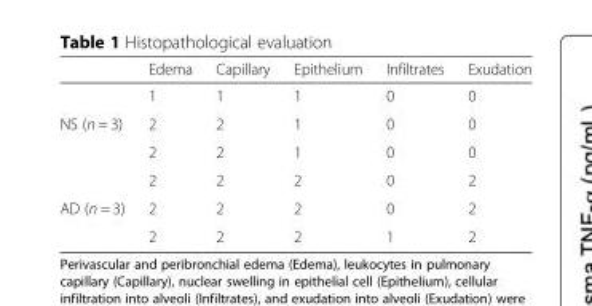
<table><thead><tr><td></td><td>Edema</td><td>Capillary</td><td>Epithelium</td><td>Infiltrates</td><td>Exudation</td></tr></thead><tbody><tr><td></td><td>1</td><td>1</td><td>1</td><td>0</td><td>0</td></tr><tr><td rowspan="3">NS (n = 3)</td><td>2</td><td>2</td><td>1</td><td>0</td><td>0</td></tr><tr><td>2</td><td>2</td><td>1</td><td>0</td><td>0</td></tr><tr><td>2</td><td>2</td><td>2</td><td>0</td><td>2</td></tr><tr><td rowspan="2">AD (n = 3)</td><td>2</td><td>2</td><td>2</td><td>0</td><td>2</td></tr><tr><td>2</td><td>2</td><td>2</td><td>1</td><td>2</td></tr></tbody></table>